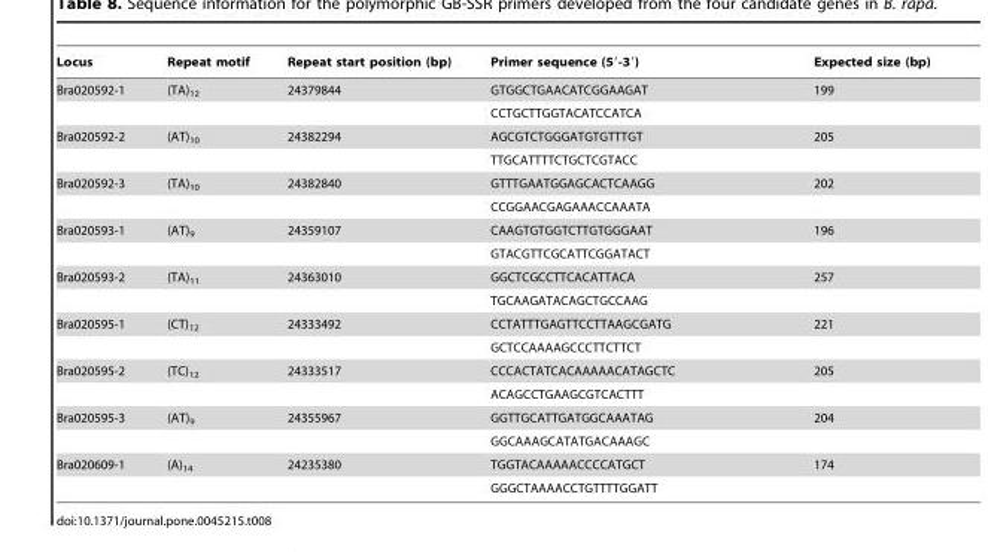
<table><thead><tr><td>Locus</td><td>Repeat motif</td><td>Repeat start position (bp)</td><td>Primer sequence (5′-3′)</td><td>Expected size (bp)</td></tr></thead><tbody><tr><td rowspan="2">Bra020592-1</td><td>(TA)<sub>12</sub></td><td>24379844</td><td>GTGGCTGAACATCGGAAGAT</td><td>199</td></tr><tr><td></td><td></td><td>CCTGCTTGGTACATCCATCA</td><td></td></tr><tr><td rowspan="2">Bra020592-2</td><td>(AT)<sub>10</sub></td><td>24382294</td><td>AGCGTCTGGGATGTGTTTGT</td><td>205</td></tr><tr><td></td><td></td><td>TTGCATTTTCTGCTCGTACC</td><td></td></tr><tr><td rowspan="2">Bra020592-3</td><td>(TA)<sub>10</sub></td><td>24382840</td><td>GTTTGAATGGAGCACTCAAGG</td><td>202</td></tr><tr><td></td><td></td><td>CCGGAACGAGAAACCAAATA</td><td></td></tr><tr><td rowspan="2">Bra020593-1</td><td>(AT)<sub>9</sub></td><td>24359107</td><td>CAAGTGTGGTCTTGTGGGAAT</td><td>196</td></tr><tr><td></td><td></td><td>GTACGTTCGCATTCGGATACT</td><td></td></tr><tr><td rowspan="2">Bra020593-2</td><td>(TA)<sub>11</sub></td><td>24363010</td><td>GGCTCGCCTTCACATTACA</td><td>257</td></tr><tr><td></td><td></td><td>TGCAAGATACAGCTGCCAAG</td><td></td></tr><tr><td rowspan="2">Bra020595-1</td><td>(CT)<sub>12</sub></td><td>24333492</td><td>CCTATTTGAGTTCCTTAAGCGATG</td><td>221</td></tr><tr><td></td><td></td><td>GCTCCAAAAGCCCTTCTTCT</td><td></td></tr><tr><td rowspan="2">Bra020595-2</td><td>(TC)<sub>12</sub></td><td>24333517</td><td>CCCACTATCACAAAAACATAGCTC</td><td>205</td></tr><tr><td></td><td></td><td>ACAGCCTGAAGCGTCACTTT</td><td></td></tr><tr><td rowspan="2">Bra020595-3</td><td>(AT)<sub>9</sub></td><td>24355967</td><td>GGTTGCATTGATGGCAAATAG</td><td>204</td></tr><tr><td></td><td></td><td>GGCAAAGCATATGACAAAGC</td><td></td></tr><tr><td rowspan="2">Bra020609-1</td><td>(A)<sub>14</sub></td><td>24235380</td><td>TGGTACAAAAACCCCATGCT</td><td>174</td></tr><tr><td></td><td></td><td>GGGCTAAAACCTGTTTTGGATT</td><td></td></tr></tbody></table>